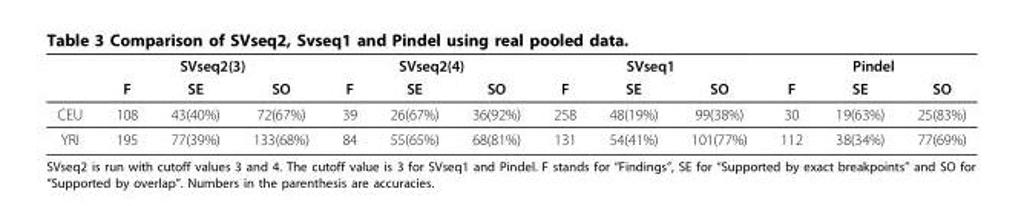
<table><thead><tr><td rowspan="2"></td><td colspan="3">SVseq2(3)</td><td colspan="3">SVseq2(4)</td><td colspan="3">SVseq1</td><td colspan="3">Pindel</td></tr><tr><td>F</td><td>SE</td><td>SO</td><td>F</td><td>SE</td><td>SO</td><td>F</td><td>SE</td><td>SO</td><td>F</td><td>SE</td><td>SO</td></tr></thead><tbody><tr><td>CEU</td><td>108</td><td>43(40%)</td><td>72(67%)</td><td>39</td><td>26(67%)</td><td>36(92%)</td><td>258</td><td>48(19%)</td><td>99(38%)</td><td>30</td><td>19(63%)</td><td>25(83%)</td></tr><tr><td>YRI</td><td>195</td><td>77(39%)</td><td>133(68%)</td><td>84</td><td>55(65%)</td><td>68(81%)</td><td>131</td><td>54(41%)</td><td>101(77%)</td><td>112</td><td>38(34%)</td><td>77(69%)</td></tr></tbody></table>